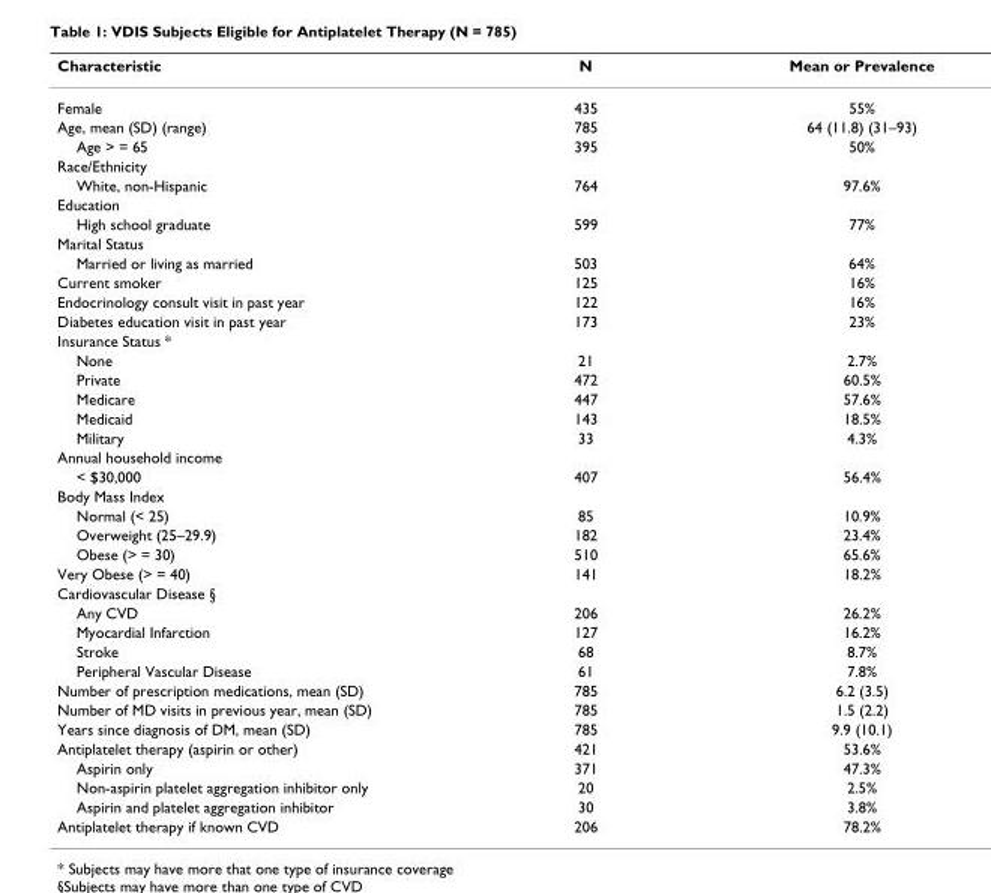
<table><thead><tr><td>Characteristic</td><td>N</td><td>Mean or Prevalence</td></tr></thead><tbody><tr><td>Female</td><td>435</td><td>55%</td></tr><tr><td>Age, mean (SD) (range)</td><td>785</td><td>64 (11.8) (31–93)</td></tr><tr><td>Age &gt; = 65</td><td>395</td><td>50%</td></tr><tr><td colspan="3">Race/Ethnicity</td></tr><tr><td>White, non-Hispanic</td><td>764</td><td>97.6%</td></tr><tr><td colspan="3">Education</td></tr><tr><td>High school graduate</td><td>599</td><td>77%</td></tr><tr><td colspan="3">Marital Status</td></tr><tr><td>Married or living as married</td><td>503</td><td>64%</td></tr><tr><td>Current smoker</td><td>125</td><td>16%</td></tr><tr><td>Endocrinology consult visit in past year</td><td>122</td><td>16%</td></tr><tr><td>Diabetes education visit in past year</td><td>173</td><td>23%</td></tr><tr><td colspan="3">Insurance Status *</td></tr><tr><td>None</td><td>21</td><td>2.7%</td></tr><tr><td>Private</td><td>472</td><td>60.5%</td></tr><tr><td>Medicare</td><td>447</td><td>57.6%</td></tr><tr><td>Medicaid</td><td>143</td><td>18.5%</td></tr><tr><td>Military</td><td>33</td><td>4.3%</td></tr><tr><td colspan="3">Annual household income</td></tr><tr><td>&lt; $30,000</td><td>407</td><td>56.4%</td></tr><tr><td colspan="3">Body Mass Index</td></tr><tr><td>Normal (&lt; 25)</td><td>85</td><td>10.9%</td></tr><tr><td>Overweight (25–29.9)</td><td>182</td><td>23.4%</td></tr><tr><td>Obese (&gt; = 30)</td><td>510</td><td>65.6%</td></tr><tr><td>Very Obese (&gt; = 40)</td><td>141</td><td>18.2%</td></tr><tr><td colspan="3">Cardiovascular Disease §</td></tr><tr><td>Any CVD</td><td>206</td><td>26.2%</td></tr><tr><td>Myocardial Infarction</td><td>127</td><td>16.2%</td></tr><tr><td>Stroke</td><td>68</td><td>8.7%</td></tr><tr><td>Peripheral Vascular Disease</td><td>61</td><td>7.8%</td></tr><tr><td>Number of prescription medications, mean (SD)</td><td>785</td><td>6.2 (3.5)</td></tr><tr><td>Number of MD visits in previous year, mean (SD)</td><td>785</td><td>1.5 (2.2)</td></tr><tr><td>Years since diagnosis of DM, mean (SD)</td><td>785</td><td>9.9 (10.1)</td></tr><tr><td>Antiplatelet therapy (aspirin or other)</td><td>421</td><td>53.6%</td></tr><tr><td>Aspirin only</td><td>371</td><td>47.3%</td></tr><tr><td>Non-aspirin platelet aggregation inhibitor only</td><td>20</td><td>2.5%</td></tr><tr><td>Aspirin and platelet aggregation inhibitor</td><td>30</td><td>3.8%</td></tr><tr><td>Antiplatelet therapy if known CVD</td><td>206</td><td>78.2%</td></tr></tbody></table>